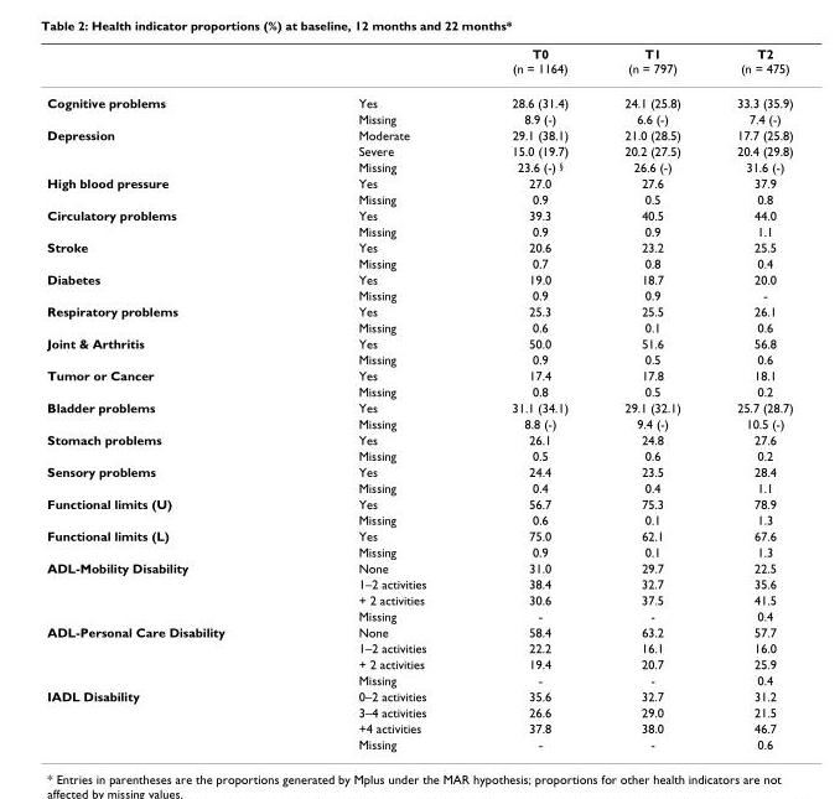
<table><thead><tr><td></td><td></td><td>T0 (n = 1164)</td><td>T1 (n = 797)</td><td>T2 (n = 475)</td></tr></thead><tbody><tr><td rowspan="2">Cognitive problems</td><td>Yes</td><td>28.6 (31.4)</td><td>24.1 (25.8)</td><td>33.3 (35.9)</td></tr><tr><td>Missing</td><td>8.9 (-)</td><td>6.6 (-)</td><td>7.4 (-)</td></tr><tr><td rowspan="3">Depression</td><td>Moderate</td><td>29.1 (38.1)</td><td>21.0 (28.5)</td><td>17.7 (25.8)</td></tr><tr><td>Severe</td><td>15.0 (19.7)</td><td>20.2 (27.5)</td><td>20.4 (29.8)</td></tr><tr><td>Missing</td><td>23.6 (-) <sup>§</sup></td><td>26.6 (-)</td><td>31.6 (-)</td></tr><tr><td rowspan="2">High blood pressure</td><td>Yes</td><td>27.0</td><td>27.6</td><td>37.9</td></tr><tr><td>Missing</td><td>0.9</td><td>0.5</td><td>0.8</td></tr><tr><td rowspan="2">Circulatory problems</td><td>Yes</td><td>39.3</td><td>40.5</td><td>44.0</td></tr><tr><td>Missing</td><td>0.9</td><td>0.9</td><td>1.1</td></tr><tr><td rowspan="2">Stroke</td><td>Yes</td><td>20.6</td><td>23.2</td><td>25.5</td></tr><tr><td>Missing</td><td>0.7</td><td>0.8</td><td>0.4</td></tr><tr><td rowspan="2">Diabetes</td><td>Yes</td><td>19.0</td><td>18.7</td><td>20.0</td></tr><tr><td>Missing</td><td>0.9</td><td>0.9</td><td>-</td></tr><tr><td rowspan="2">Respiratory problems</td><td>Yes</td><td>25.3</td><td>25.5</td><td>26.1</td></tr><tr><td>Missing</td><td>0.6</td><td>0.1</td><td>0.6</td></tr><tr><td rowspan="2">Joint &amp; Arthritis</td><td>Yes</td><td>50.0</td><td>51.6</td><td>56.8</td></tr><tr><td>Missing</td><td>0.9</td><td>0.5</td><td>0.6</td></tr><tr><td rowspan="2">Tumor or Cancer</td><td>Yes</td><td>17.4</td><td>17.8</td><td>18.1</td></tr><tr><td>Missing</td><td>0.8</td><td>0.5</td><td>0.2</td></tr><tr><td rowspan="2">Bladder problems</td><td>Yes</td><td>31.1 (34.1)</td><td>29.1 (32.1)</td><td>25.7 (28.7)</td></tr><tr><td>Missing</td><td>8.8 (-)</td><td>9.4 (-)</td><td>10.5 (-)</td></tr><tr><td rowspan="2">Stomach problems</td><td>Yes</td><td>26.1</td><td>24.8</td><td>27.6</td></tr><tr><td>Missing</td><td>0.5</td><td>0.6</td><td>0.2</td></tr><tr><td rowspan="2">Sensory problems</td><td>Yes</td><td>24.4</td><td>23.5</td><td>28.4</td></tr><tr><td>Missing</td><td>0.4</td><td>0.4</td><td>1.1</td></tr><tr><td rowspan="2">Functional limits (U)</td><td>Yes</td><td>56.7</td><td>75.3</td><td>78.9</td></tr><tr><td>Missing</td><td>0.6</td><td>0.1</td><td>1.3</td></tr><tr><td rowspan="2">Functional limits (L)</td><td>Yes</td><td>75.0</td><td>62.1</td><td>67.6</td></tr><tr><td>Missing</td><td>0.9</td><td>0.1</td><td>1.3</td></tr><tr><td rowspan="4">ADL-Mobility Disability</td><td>None</td><td>31.0</td><td>29.7</td><td>22.5</td></tr><tr><td>1–2 activities</td><td>38.4</td><td>32.7</td><td>35.6</td></tr><tr><td>+ 2 activities</td><td>30.6</td><td>37.5</td><td>41.5</td></tr><tr><td>Missing</td><td>-</td><td>-</td><td>0.4</td></tr><tr><td rowspan="4">ADL-Personal Care Disability</td><td>None</td><td>58.4</td><td>63.2</td><td>57.7</td></tr><tr><td>1–2 activities</td><td>22.2</td><td>16.1</td><td>16.0</td></tr><tr><td>+ 2 activities</td><td>19.4</td><td>20.7</td><td>25.9</td></tr><tr><td>Missing</td><td>-</td><td>-</td><td>0.4</td></tr><tr><td rowspan="4">IADL Disability</td><td>0–2 activities</td><td>35.6</td><td>32.7</td><td>31.2</td></tr><tr><td>3–4 activities</td><td>26.6</td><td>29.0</td><td>21.5</td></tr><tr><td>+4 activities</td><td>37.8</td><td>38.0</td><td>46.7</td></tr><tr><td>Missing</td><td>-</td><td>-</td><td>0.6</td></tr></tbody></table>